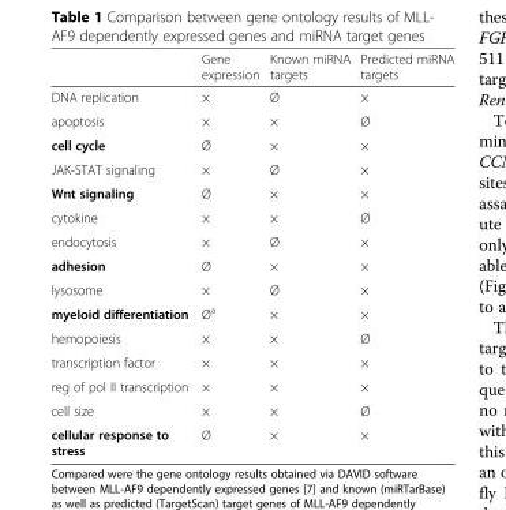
<table><thead><tr><td></td><td>Gene expression</td><td>Known miRNA targets</td><td>Predicted miRNA targets</td></tr></thead><tbody><tr><td>DNA replication</td><td>×</td><td>Ø</td><td>×</td></tr><tr><td>apoptosis</td><td>×</td><td>×</td><td>Ø</td></tr><tr><td>cell cycle</td><td>Ø</td><td>×</td><td>×</td></tr><tr><td>JAK-STAT signaling</td><td>×</td><td>Ø</td><td>×</td></tr><tr><td>Wnt signaling</td><td>Ø</td><td>×</td><td>×</td></tr><tr><td>cytokine</td><td>×</td><td>×</td><td>Ø</td></tr><tr><td>endocytosis</td><td>×</td><td>Ø</td><td>×</td></tr><tr><td>adhesion</td><td>Ø</td><td>×</td><td>×</td></tr><tr><td>lysosome</td><td>×</td><td>Ø</td><td>×</td></tr><tr><td>myeloid differentiation</td><td>Ø<sup>a</sup></td><td>×</td><td>×</td></tr><tr><td>hemopoiesis</td><td>×</td><td>×</td><td>Ø</td></tr><tr><td>transcription factor</td><td>×</td><td>×</td><td>×</td></tr><tr><td>reg of pol II transcription</td><td>×</td><td>×</td><td>×</td></tr><tr><td>cell size</td><td>×</td><td>×</td><td>Ø</td></tr><tr><td>cellular response to stress</td><td>Ø</td><td>×</td><td>×</td></tr></tbody></table>